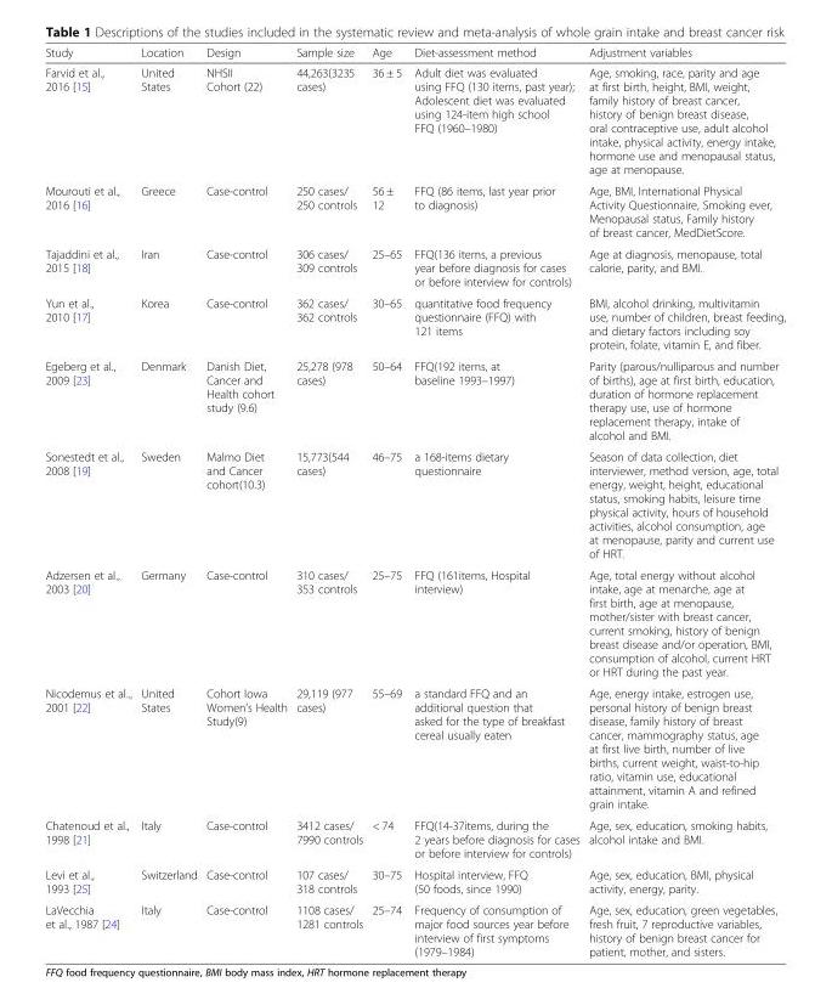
<table><thead><tr><td>Study</td><td>Location</td><td>Design</td><td>Sample size</td><td>Age</td><td>Diet-assessment method</td><td>Adjustment variables</td></tr></thead><tbody><tr><td>Farvid et al., 2016 [15]</td><td>United States</td><td>NHSII Cohort (22)</td><td>44,263(3235 cases)</td><td>36 ± 5</td><td>Adult diet was evaluated using FFQ (130 items, past year); Adolescent diet was evaluated using 124-item high school FFQ (1960–1980)</td><td>Age, smoking, race, parity and age at first birth, height, BMI, weight, family history of breast cancer, history of benign breast disease, oral contraceptive use, adult alcohol intake, physical activity, energy intake, hormone use and menopausal status, age at menopause.</td></tr><tr><td>Mourouti et al., 2016 [16]</td><td>Greece</td><td>Case-control</td><td>250 cases/ 250 controls</td><td>56 ± 12</td><td>FFQ (86 items, last year prior to diagnosis)</td><td>Age, BMI, International Physical Activity Questionnaire, Smoking ever, Menopausal status, Family history of breast cancer, MedDietScore.</td></tr><tr><td>Tajaddini et al., 2015 [18]</td><td>Iran</td><td>Case-control</td><td>306 cases/ 309 controls</td><td>25–65</td><td>FFQ(136 items, a previous year before diagnosis for cases or before interview for controls)</td><td>Age at diagnosis, menopause, total calorie, parity, and BMI.</td></tr><tr><td>Yun et al., 2010 [17]</td><td>Korea</td><td>Case-control</td><td>362 cases/ 362 controls</td><td>30–65</td><td>quantitative food frequency questionnaire (FFQ) with 121 items</td><td>BMI, alcohol drinking, multivitamin use, number of children, breast feeding, and dietary factors including soy protein, folate, vitamin E, and fiber.</td></tr><tr><td>Egeberg et al., 2009 [23]</td><td>Denmark</td><td>Danish Diet, Cancer and Health cohort study (9.6)</td><td>25,278 (978 cases)</td><td>50–64</td><td>FFQ(192 items, at baseline 1993–1997)</td><td>Parity (parous/nulliparous and number of births), age at first birth, education, duration of hormone replacement therapy use, use of hormone replacement therapy, intake of alcohol and BMI.</td></tr><tr><td>Sonestedt et al., 2008 [19]</td><td>Sweden</td><td>Malmo Diet and Cancer cohort(10.3)</td><td>15,773(544 cases)</td><td>46–75</td><td>a 168-items dietary questionnaire</td><td>Season of data collection, diet interviewer, method version, age, total energy, weight, height, educational status, smoking habits, leisure time physical activity, hours of household activities, alcohol consumption, age at menopause, parity and current use of HRT.</td></tr><tr><td>Adzersen et al., 2003 [20]</td><td>Germany</td><td>Case-control</td><td>310 cases/ 353 controls</td><td>25–75</td><td>FFQ (161items, Hospital interview)</td><td>Age, total energy without alcohol intake, age at menarche, age at first birth, age at menopause, mother/sister with breast cancer, current smoking, history of benign breast disease and/or operation, BMI, consumption of alcohol, current HRT or HRT during the past year.</td></tr><tr><td>Nicodemus et al.., 2001 [22]</td><td>United States</td><td>Cohort Iowa Women’s Health Study(9)</td><td>29,119 (977 cases)</td><td>55–69</td><td>a standard FFQ and an additional question that asked for the type of breakfast cereal usually eaten</td><td>Age, energy intake, estrogen use, personal history of benign breast disease, family history of breast cancer, mammography status, age at first live birth, number of live births, current weight, waist-to-hip ratio, vitamin use, educational attainment, vitamin A and refined grain intake.</td></tr><tr><td>Chatenoud et al., 1998 [21]</td><td>Italy</td><td>Case-control</td><td>3412 cases/ 7990 controls</td><td>&lt; 74</td><td>FFQ(14-37items, during the 2 years before diagnosis for cases or before interview for controls)</td><td>Age, sex, education, smoking habits, alcohol intake and BMI.</td></tr><tr><td>Levi et al., 1993 [25]</td><td>Switzerland</td><td>Case-control</td><td>107 cases/ 318 controls</td><td>30–75</td><td>Hospital interview, FFQ (50 foods, since 1990)</td><td>Age, sex, education, BMI, physical activity, energy, parity.</td></tr><tr><td>LaVecchia et al., 1987 [24]</td><td>Italy</td><td>Case-control</td><td>1108 cases/ 1281 controls</td><td>25–74</td><td>Frequency of consumption of major food sources year before interview of first symptoms (1979–1984)</td><td>Age, sex, education, green vegetables, fresh fruit, 7 reproductive variables, history of benign breast cancer for patient, mother, and sisters.</td></tr></tbody></table>